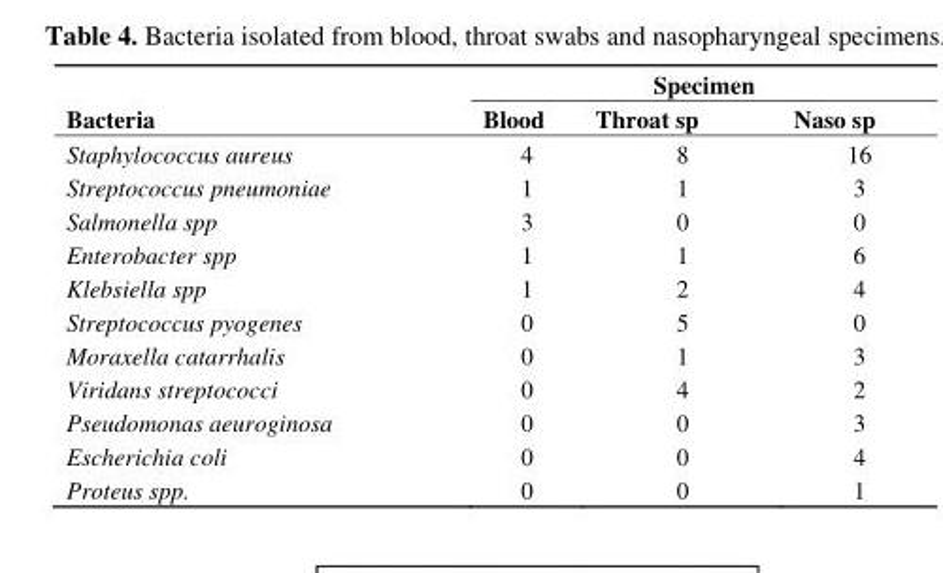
<table><thead><tr><td rowspan="2">Bacteria</td><td colspan="3">Specimen</td></tr><tr><td>Blood</td><td>Throat sp</td><td>Naso sp</td></tr></thead><tbody><tr><td>Staphylococcus aureus</td><td>4</td><td>8</td><td>16</td></tr><tr><td>Streptococcus pneumoniae</td><td>1</td><td>1</td><td>3</td></tr><tr><td>Salmonella spp</td><td>3</td><td>0</td><td>0</td></tr><tr><td>Enterobacter spp</td><td>1</td><td>1</td><td>6</td></tr><tr><td>Klebsiella spp</td><td>1</td><td>2</td><td>4</td></tr><tr><td>Streptococcus pyogenes</td><td>0</td><td>5</td><td>0</td></tr><tr><td>Moraxella catarrhalis</td><td>0</td><td>1</td><td>3</td></tr><tr><td>Viridans streptococci</td><td>0</td><td>4</td><td>2</td></tr><tr><td>Pseudomonas aeuroginosa</td><td>0</td><td>0</td><td>3</td></tr><tr><td>Escherichia coli</td><td>0</td><td>0</td><td>4</td></tr><tr><td>Proteus spp.</td><td>0</td><td>0</td><td>1</td></tr></tbody></table>